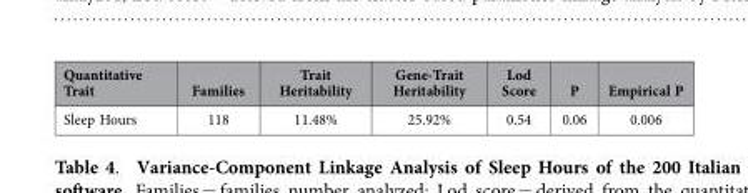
<table><thead><tr><td>Quantitative Trait</td><td>Families</td><td>Trait Heritability</td><td>Gene-Trait Heritability</td><td>Lod Score</td><td>P</td><td>Empirical P</td></tr></thead><tbody><tr><td>Sleep Hours</td><td>118</td><td>11.48%</td><td>25.92%</td><td>0.54</td><td>0.06</td><td>0.006</td></tr></tbody></table>